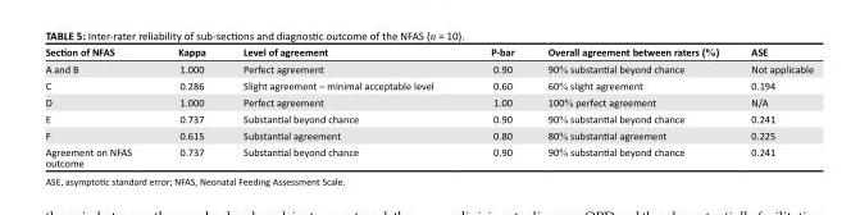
<table><thead><tr><td>Section of NFAS</td><td>Kappa</td><td>Level of agreement</td><td>P-bar</td><td>Overall agreement between raters (%)</td><td>ASE</td></tr></thead><tbody><tr><td>A and B</td><td>1.000</td><td>Perfect agreement</td><td>0.90</td><td>90% substantial beyond chance</td><td>Not applicable</td></tr><tr><td>C</td><td>0.286</td><td>Slight agreement – minimal acceptable level</td><td>0.60</td><td>60% slight agreement</td><td>0.194</td></tr><tr><td>D</td><td>1.000</td><td>Perfect agreement</td><td>1.00</td><td>100% perfect agreement</td><td>N/A</td></tr><tr><td>E</td><td>0.737</td><td>Substantial beyond chance</td><td>0.90</td><td>90% substantial beyond chance</td><td>0.241</td></tr><tr><td>F</td><td>0.615</td><td>Substantial agreement</td><td>0.80</td><td>80% substantial agreement</td><td>0.225</td></tr><tr><td>Agreement on NFAS outcome</td><td>0.737</td><td>Substantial beyond chance</td><td>0.90</td><td>90% substantial beyond chance</td><td>0.241</td></tr></tbody></table>